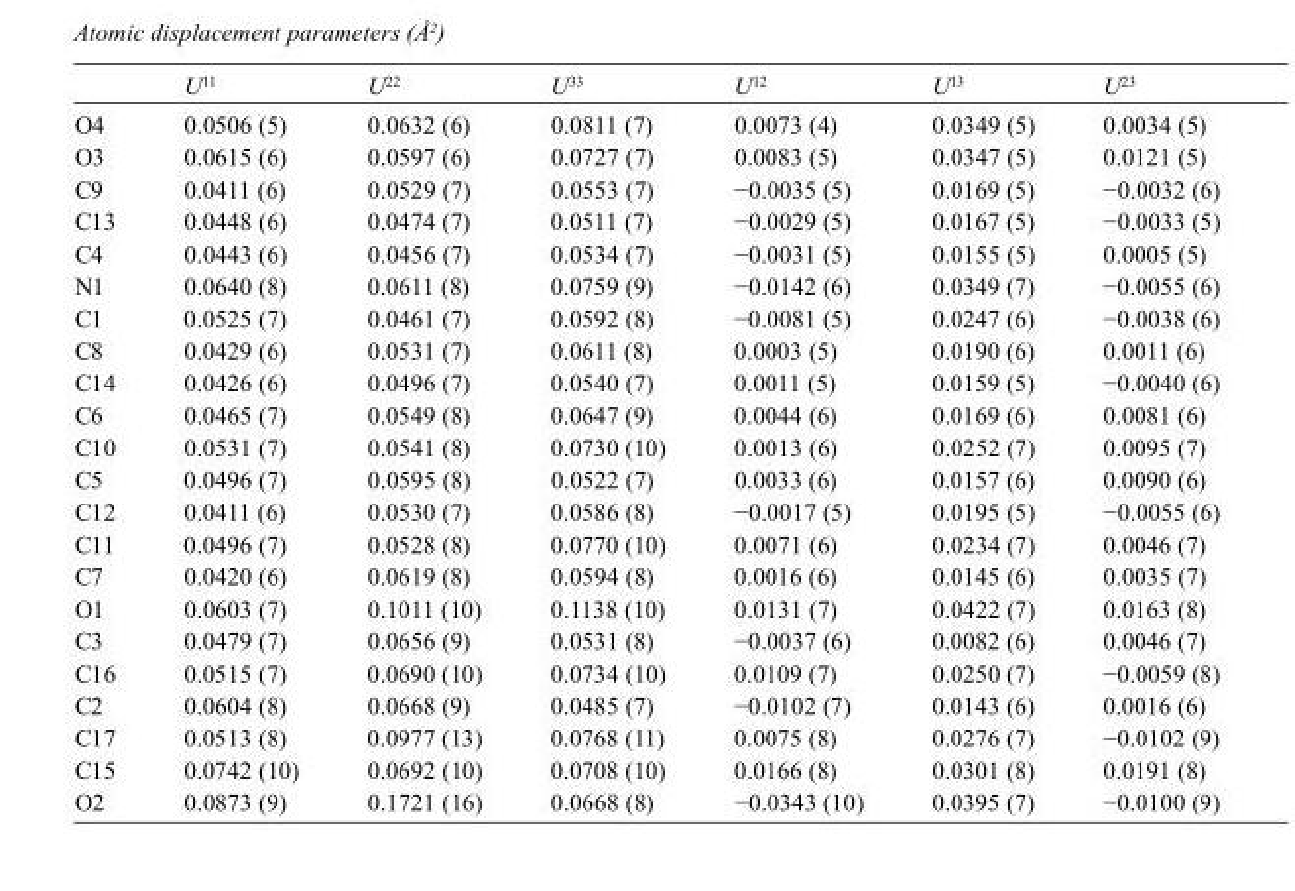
<table><thead><tr><td></td><td>U<sup>11</sup></td><td>U<sup>22</sup></td><td>U<sup>33</sup></td><td>U<sup>12</sup></td><td>U<sup>13</sup></td><td>U<sup>23</sup></td></tr></thead><tbody><tr><td>O4</td><td>0.0506 (5)</td><td>0.0632 (6)</td><td>0.0811 (7)</td><td>0.0073 (4)</td><td>0.0349 (5)</td><td>0.0034 (5)</td></tr><tr><td>O3</td><td>0.0615 (6)</td><td>0.0597 (6)</td><td>0.0727 (7)</td><td>0.0083 (5)</td><td>0.0347 (5)</td><td>0.0121 (5)</td></tr><tr><td>C9</td><td>0.0411 (6)</td><td>0.0529 (7)</td><td>0.0553 (7)</td><td>−0.0035 (5)</td><td>0.0169 (5)</td><td>−0.0032 (6)</td></tr><tr><td>C13</td><td>0.0448 (6)</td><td>0.0474 (7)</td><td>0.0511 (7)</td><td>−0.0029 (5)</td><td>0.0167 (5)</td><td>−0.0033 (5)</td></tr><tr><td>C4</td><td>0.0443 (6)</td><td>0.0456 (7)</td><td>0.0534 (7)</td><td>−0.0031 (5)</td><td>0.0155 (5)</td><td>0.0005 (5)</td></tr><tr><td>N1</td><td>0.0640 (8)</td><td>0.0611 (8)</td><td>0.0759 (9)</td><td>−0.0142 (6)</td><td>0.0349 (7)</td><td>−0.0055 (6)</td></tr><tr><td>C1</td><td>0.0525 (7)</td><td>0.0461 (7)</td><td>0.0592 (8)</td><td>−0.0081 (5)</td><td>0.0247 (6)</td><td>−0.0038 (6)</td></tr><tr><td>C8</td><td>0.0429 (6)</td><td>0.0531 (7)</td><td>0.0611 (8)</td><td>0.0003 (5)</td><td>0.0190 (6)</td><td>0.0011 (6)</td></tr><tr><td>C14</td><td>0.0426 (6)</td><td>0.0496 (7)</td><td>0.0540 (7)</td><td>0.0011 (5)</td><td>0.0159 (5)</td><td>−0.0040 (6)</td></tr><tr><td>C6</td><td>0.0465 (7)</td><td>0.0549 (8)</td><td>0.0647 (9)</td><td>0.0044 (6)</td><td>0.0169 (6)</td><td>0.0081 (6)</td></tr><tr><td>C10</td><td>0.0531 (7)</td><td>0.0541 (8)</td><td>0.0730 (10)</td><td>0.0013 (6)</td><td>0.0252 (7)</td><td>0.0095 (7)</td></tr><tr><td>C5</td><td>0.0496 (7)</td><td>0.0595 (8)</td><td>0.0522 (7)</td><td>0.0033 (6)</td><td>0.0157 (6)</td><td>0.0090 (6)</td></tr><tr><td>C12</td><td>0.0411 (6)</td><td>0.0530 (7)</td><td>0.0586 (8)</td><td>−0.0017 (5)</td><td>0.0195 (5)</td><td>−0.0055 (6)</td></tr><tr><td>C11</td><td>0.0496 (7)</td><td>0.0528 (8)</td><td>0.0770 (10)</td><td>0.0071 (6)</td><td>0.0234 (7)</td><td>0.0046 (7)</td></tr><tr><td>C7</td><td>0.0420 (6)</td><td>0.0619 (8)</td><td>0.0594 (8)</td><td>0.0016 (6)</td><td>0.0145 (6)</td><td>0.0035 (7)</td></tr><tr><td>O1</td><td>0.0603 (7)</td><td>0.1011 (10)</td><td>0.1138 (10)</td><td>0.0131 (7)</td><td>0.0422 (7)</td><td>0.0163 (8)</td></tr><tr><td>C3</td><td>0.0479 (7)</td><td>0.0656 (9)</td><td>0.0531 (8)</td><td>−0.0037 (6)</td><td>0.0082 (6)</td><td>0.0046 (7)</td></tr><tr><td>C16</td><td>0.0515 (7)</td><td>0.0690 (10)</td><td>0.0734 (10)</td><td>0.0109 (7)</td><td>0.0250 (7)</td><td>−0.0059 (8)</td></tr><tr><td>C2</td><td>0.0604 (8)</td><td>0.0668 (9)</td><td>0.0485 (7)</td><td>−0.0102 (7)</td><td>0.0143 (6)</td><td>0.0016 (6)</td></tr><tr><td>C17</td><td>0.0513 (8)</td><td>0.0977 (13)</td><td>0.0768 (11)</td><td>0.0075 (8)</td><td>0.0276 (7)</td><td>−0.0102 (9)</td></tr><tr><td>C15</td><td>0.0742 (10)</td><td>0.0692 (10)</td><td>0.0708 (10)</td><td>0.0166 (8)</td><td>0.0301 (8)</td><td>0.0191 (8)</td></tr><tr><td>O2</td><td>0.0873 (9)</td><td>0.1721 (16)</td><td>0.0668 (8)</td><td>−0.0343 (10)</td><td>0.0395 (7)</td><td>−0.0100 (9)</td></tr></tbody></table>